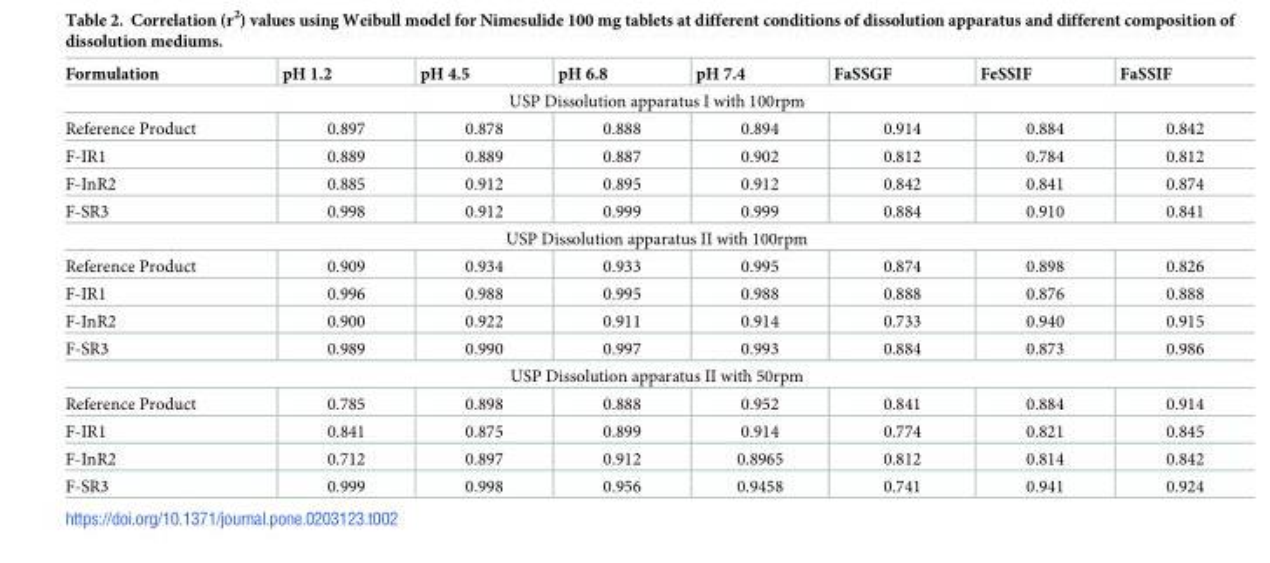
<table><thead><tr><td>Formulation</td><td>pH 1.2</td><td>pH 4.5</td><td>pH 6.8</td><td>pH 7.4</td><td>FaSSGF</td><td>FeSSIF</td><td>FaSSIF</td></tr></thead><tbody><tr><td colspan="8">USP Dissolution apparatus I with 100rpm</td></tr><tr><td>Reference Product</td><td>0.897</td><td>0.878</td><td>0.888</td><td>0.894</td><td>0.914</td><td>0.884</td><td>0.842</td></tr><tr><td>F-IR1</td><td>0.889</td><td>0.889</td><td>0.887</td><td>0.902</td><td>0.812</td><td>0.784</td><td>0.812</td></tr><tr><td>F-InR2</td><td>0.885</td><td>0.912</td><td>0.895</td><td>0.912</td><td>0.842</td><td>0.841</td><td>0.874</td></tr><tr><td>F-SR3</td><td>0.998</td><td>0.912</td><td>0.999</td><td>0.999</td><td>0.884</td><td>0.910</td><td>0.841</td></tr><tr><td colspan="8">USP Dissolution apparatus II with 100rpm</td></tr><tr><td>Reference Product</td><td>0.909</td><td>0.934</td><td>0.933</td><td>0.995</td><td>0.874</td><td>0.898</td><td>0.826</td></tr><tr><td>F-IR1</td><td>0.996</td><td>0.988</td><td>0.995</td><td>0.988</td><td>0.888</td><td>0.876</td><td>0.888</td></tr><tr><td>F-InR2</td><td>0.900</td><td>0.922</td><td>0.911</td><td>0.914</td><td>0.733</td><td>0.940</td><td>0.915</td></tr><tr><td>F-SR3</td><td>0.989</td><td>0.990</td><td>0.997</td><td>0.993</td><td>0.884</td><td>0.873</td><td>0.986</td></tr><tr><td colspan="8">USP Dissolution apparatus II with 50rpm</td></tr><tr><td>Reference Product</td><td>0.785</td><td>0.898</td><td>0.888</td><td>0.952</td><td>0.841</td><td>0.884</td><td>0.914</td></tr><tr><td>F-IR1</td><td>0.841</td><td>0.875</td><td>0.899</td><td>0.914</td><td>0.774</td><td>0.821</td><td>0.845</td></tr><tr><td>F-InR2</td><td>0.712</td><td>0.897</td><td>0.912</td><td>0.8965</td><td>0.812</td><td>0.814</td><td>0.842</td></tr><tr><td>F-SR3</td><td>0.999</td><td>0.998</td><td>0.956</td><td>0.9458</td><td>0.741</td><td>0.941</td><td>0.924</td></tr></tbody></table>